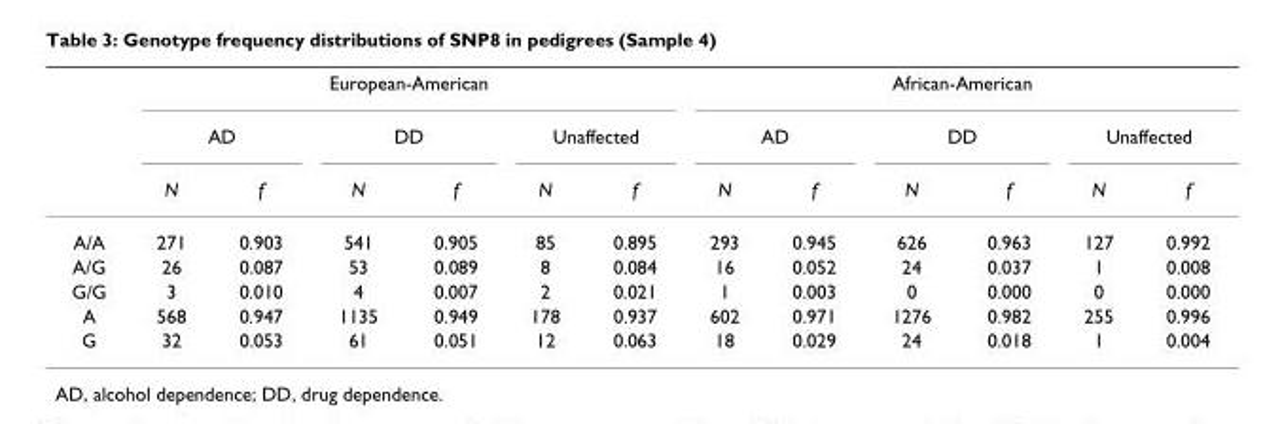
<table><thead><tr><td rowspan="3"></td><td colspan="6">European-American</td><td colspan="6">African-American</td></tr><tr><td colspan="2">AD</td><td colspan="2">DD</td><td colspan="2">Unaffected</td><td colspan="2">AD</td><td colspan="2">DD</td><td colspan="2">Unaffected</td></tr><tr><td>N</td><td>f</td><td>N</td><td>f</td><td>N</td><td>f</td><td>N</td><td>f</td><td>N</td><td>f</td><td>N</td><td>f</td></tr></thead><tbody><tr><td>A/A</td><td>271</td><td>0.903</td><td>541</td><td>0.905</td><td>85</td><td>0.895</td><td>293</td><td>0.945</td><td>626</td><td>0.963</td><td>127</td><td>0.992</td></tr><tr><td>A/G</td><td>26</td><td>0.087</td><td>53</td><td>0.089</td><td>8</td><td>0.084</td><td>16</td><td>0.052</td><td>24</td><td>0.037</td><td>1</td><td>0.008</td></tr><tr><td>G/G</td><td>3</td><td>0.010</td><td>4</td><td>0.007</td><td>2</td><td>0.021</td><td>1</td><td>0.003</td><td>0</td><td>0.000</td><td>0</td><td>0.000</td></tr><tr><td>A</td><td>568</td><td>0.947</td><td>1135</td><td>0.949</td><td>178</td><td>0.937</td><td>602</td><td>0.971</td><td>1276</td><td>0.982</td><td>255</td><td>0.996</td></tr><tr><td>G</td><td>32</td><td>0.053</td><td>61</td><td>0.051</td><td>12</td><td>0.063</td><td>18</td><td>0.029</td><td>24</td><td>0.018</td><td>1</td><td>0.004</td></tr></tbody></table>